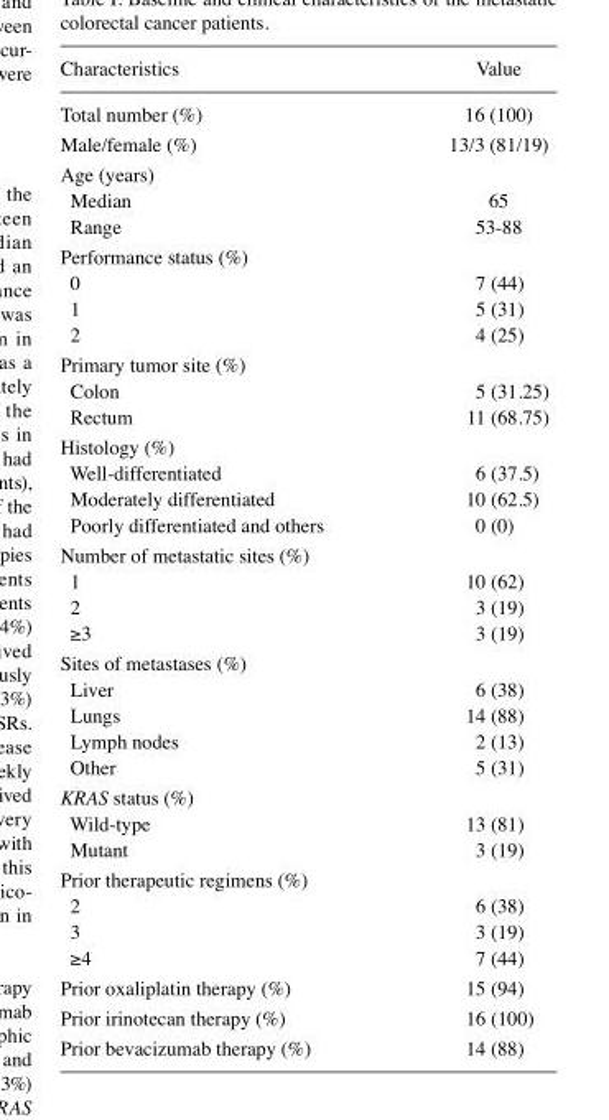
<table><thead><tr><td>Characteristics</td><td>Value</td></tr></thead><tbody><tr><td>Total number (%)</td><td>16 (100)</td></tr><tr><td>Male/female (%)</td><td>13/3 (81/19)</td></tr><tr><td colspan="2">Age (years)</td></tr><tr><td>Median</td><td>65</td></tr><tr><td>Range</td><td>53-88</td></tr><tr><td colspan="2">Performance status (%)</td></tr><tr><td>0</td><td>7 (44)</td></tr><tr><td>1</td><td>5 (31)</td></tr><tr><td>2</td><td>4 (25)</td></tr><tr><td colspan="2">Primary tumor site (%)</td></tr><tr><td>Colon</td><td>5 (31.25)</td></tr><tr><td>Rectum</td><td>11 (68.75)</td></tr><tr><td colspan="2">Histology (%)</td></tr><tr><td>Well-differentiated</td><td>6 (37.5)</td></tr><tr><td>Moderately differentiated</td><td>10 (62.5)</td></tr><tr><td>Poorly differentiated and others</td><td>0 (0)</td></tr><tr><td colspan="2">Number of metastatic sites (%)</td></tr><tr><td>1</td><td>10 (62)</td></tr><tr><td>2</td><td>3 (19)</td></tr><tr><td>≥3</td><td>3 (19)</td></tr><tr><td colspan="2">Sites of metastases (%)</td></tr><tr><td>Liver</td><td>6 (38)</td></tr><tr><td>Lungs</td><td>14 (88)</td></tr><tr><td>Lymph nodes</td><td>2 (13)</td></tr><tr><td>Other</td><td>5 (31)</td></tr><tr><td colspan="2">KRAS status (%)</td></tr><tr><td>Wild-type</td><td>13 (81)</td></tr><tr><td>Mutant</td><td>3 (19)</td></tr><tr><td colspan="2">Prior therapeutic regimens (%)</td></tr><tr><td>2</td><td>6 (38)</td></tr><tr><td>3</td><td>3 (19)</td></tr><tr><td>≥4</td><td>7 (44)</td></tr><tr><td>Prior oxaliplatin therapy (%)</td><td>15 (94)</td></tr><tr><td>Prior irinotecan therapy (%)</td><td>16 (100)</td></tr><tr><td>Prior bevacizumab therapy (%)</td><td>14 (88)</td></tr></tbody></table>